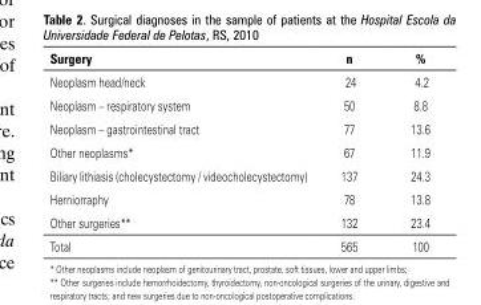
<table><thead><tr><td>Surgery</td><td>n</td><td>%</td></tr></thead><tbody><tr><td>Neoplasm head/neck</td><td>24</td><td>4.2</td></tr><tr><td>Neoplasm – respiratory system</td><td>50</td><td>8.8</td></tr><tr><td>Neoplasm – gastrointestinal tract</td><td>77</td><td>13.6</td></tr><tr><td>Other neoplasms*</td><td>67</td><td>11.9</td></tr><tr><td>Biliary lithiasis (cholecystectomy / videocholecystectomy)</td><td>137</td><td>24.3</td></tr><tr><td>Herniorraphy</td><td>78</td><td>13.8</td></tr><tr><td>Other surgeries**</td><td>132</td><td>23.4</td></tr><tr><td>Total</td><td>565</td><td>100</td></tr></tbody></table>